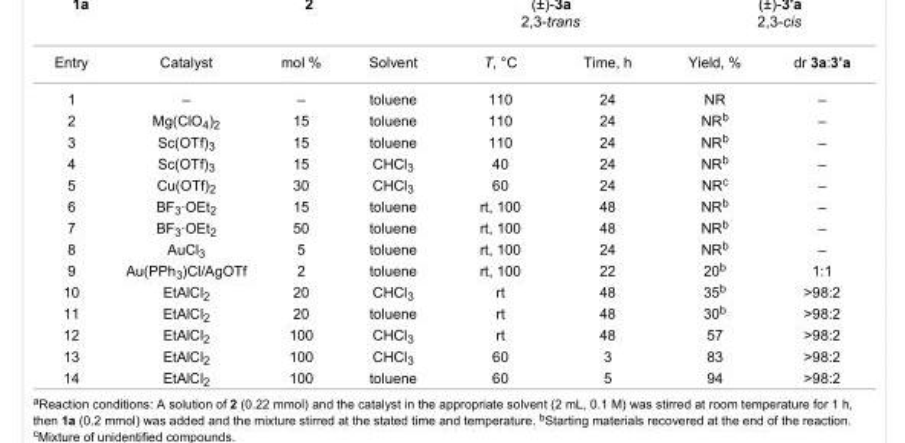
<table><tbody><tr><td>Entry</td><td>Catalyst</td><td>mol %</td><td>Solvent</td><td>T, °C</td><td>Time, h</td><td>Yield, %</td><td>dr 3a:3’a</td></tr><tr><td>1</td><td>–</td><td>–</td><td>toluene</td><td>110</td><td>24</td><td>NR</td><td>–</td></tr><tr><td>2</td><td>Mg(ClO<sub>4</sub>)<sub>2</sub></td><td>15</td><td>toluene</td><td>110</td><td>24</td><td>NR<sup>b</sup></td><td>–</td></tr><tr><td>3</td><td>Sc(OTf)<sub>3</sub></td><td>15</td><td>toluene</td><td>110</td><td>24</td><td>NR<sup>b</sup></td><td>–</td></tr><tr><td>4</td><td>Sc(OTf)<sub>3</sub></td><td>15</td><td>CHCl<sub>3</sub></td><td>40</td><td>24</td><td>NR<sup>b</sup></td><td>–</td></tr><tr><td>5</td><td>Cu(OTf)<sub>2</sub></td><td>30</td><td>CHCl<sub>3</sub></td><td>60</td><td>24</td><td>NR<sup>c</sup></td><td>–</td></tr><tr><td>6</td><td>BF<sub>3</sub>·OEt<sub>2</sub></td><td>15</td><td>toluene</td><td>rt, 100</td><td>48</td><td>NR<sup>b</sup></td><td>–</td></tr><tr><td>7</td><td>BF<sub>3</sub>·OEt<sub>2</sub></td><td>50</td><td>toluene</td><td>rt, 100</td><td>48</td><td>NR<sup>b</sup></td><td>–</td></tr><tr><td>8</td><td>AuCl<sub>3</sub></td><td>5</td><td>toluene</td><td>rt, 100</td><td>24</td><td>NR<sup>b</sup></td><td>–</td></tr><tr><td>9</td><td>Au(PPh<sub>3</sub>)Cl/AgOTf</td><td>2</td><td>toluene</td><td>rt, 100</td><td>22</td><td>20<sup>b</sup></td><td>1:1</td></tr><tr><td>10</td><td>EtAlCl<sub>2</sub></td><td>20</td><td>CHCl<sub>3</sub></td><td>rt</td><td>48</td><td>35<sup>b</sup></td><td>&gt;98:2</td></tr><tr><td>11</td><td>EtAlCl<sub>2</sub></td><td>20</td><td>toluene</td><td>rt</td><td>48</td><td>30<sup>b</sup></td><td>&gt;98:2</td></tr><tr><td>12</td><td>EtAlCl<sub>2</sub></td><td>100</td><td>CHCl<sub>3</sub></td><td>rt</td><td>48</td><td>57</td><td>&gt;98:2</td></tr><tr><td>13</td><td>EtAlCl<sub>2</sub></td><td>100</td><td>CHCl<sub>3</sub></td><td>60</td><td>3</td><td>83</td><td>&gt;98:2</td></tr><tr><td>14</td><td>EtAlCl<sub>2</sub></td><td>100</td><td>toluene</td><td>60</td><td>5</td><td>94</td><td>&gt;98:2</td></tr></tbody></table>